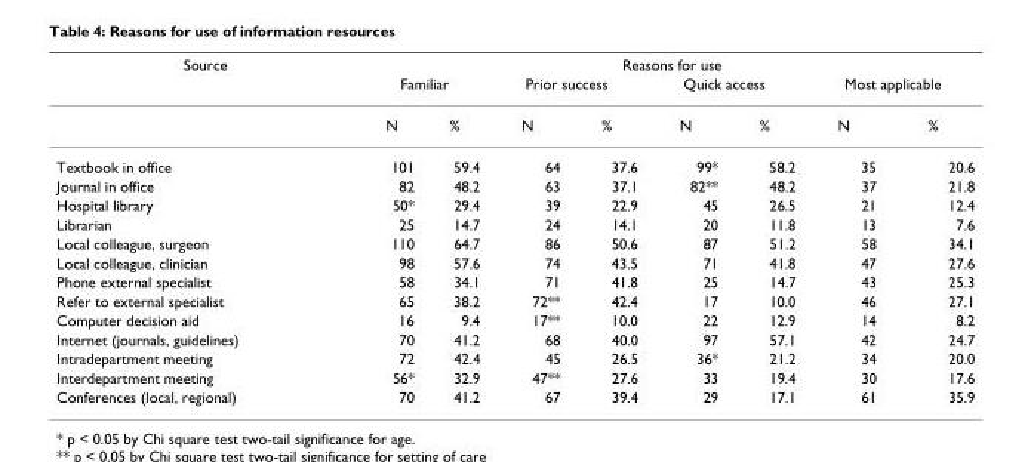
<table><thead><tr><td rowspan="3">Source</td><td colspan="8">Reasons for use</td></tr><tr><td colspan="2">Familiar</td><td colspan="2">Prior success</td><td colspan="2">Quick access</td><td colspan="2">Most applicable</td></tr><tr><td>N</td><td>%</td><td>N</td><td>%</td><td>N</td><td>%</td><td>N</td><td>%</td></tr></thead><tbody><tr><td>Textbook in office</td><td>101</td><td>59.4</td><td>64</td><td>37.6</td><td>99*</td><td>58.2</td><td>35</td><td>20.6</td></tr><tr><td>Journal in office</td><td>82</td><td>48.2</td><td>63</td><td>37.1</td><td>82**</td><td>48.2</td><td>37</td><td>21.8</td></tr><tr><td>Hospital library</td><td>50*</td><td>29.4</td><td>39</td><td>22.9</td><td>45</td><td>26.5</td><td>21</td><td>12.4</td></tr><tr><td>Librarian</td><td>25</td><td>14.7</td><td>24</td><td>14.1</td><td>20</td><td>11.8</td><td>13</td><td>7.6</td></tr><tr><td>Local colleague, surgeon</td><td>110</td><td>64.7</td><td>86</td><td>50.6</td><td>87</td><td>51.2</td><td>58</td><td>34.1</td></tr><tr><td>Local colleague, clinician</td><td>98</td><td>57.6</td><td>74</td><td>43.5</td><td>71</td><td>41.8</td><td>47</td><td>27.6</td></tr><tr><td>Phone external specialist</td><td>58</td><td>34.1</td><td>71</td><td>41.8</td><td>25</td><td>14.7</td><td>43</td><td>25.3</td></tr><tr><td>Refer to external specialist</td><td>65</td><td>38.2</td><td>72**</td><td>42.4</td><td>17</td><td>10.0</td><td>46</td><td>27.1</td></tr><tr><td>Computer decision aid</td><td>16</td><td>9.4</td><td>17**</td><td>10.0</td><td>22</td><td>12.9</td><td>14</td><td>8.2</td></tr><tr><td>Internet (journals, guidelines)</td><td>70</td><td>41.2</td><td>68</td><td>40.0</td><td>97</td><td>57.1</td><td>42</td><td>24.7</td></tr><tr><td>Intradepartment meeting</td><td>72</td><td>42.4</td><td>45</td><td>26.5</td><td>36*</td><td>21.2</td><td>34</td><td>20.0</td></tr><tr><td>Interdepartment meeting</td><td>56*</td><td>32.9</td><td>47**</td><td>27.6</td><td>33</td><td>19.4</td><td>30</td><td>17.6</td></tr><tr><td>Conferences (local, regional)</td><td>70</td><td>41.2</td><td>67</td><td>39.4</td><td>29</td><td>17.1</td><td>61</td><td>35.9</td></tr></tbody></table>